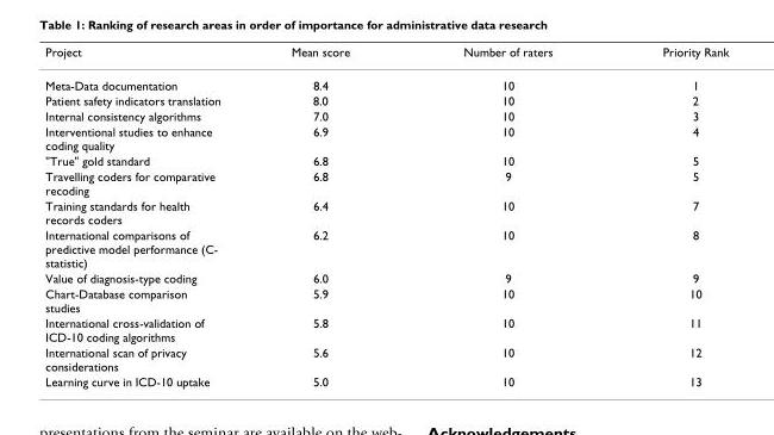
<table><thead><tr><td>Project</td><td>Mean score</td><td>Number of raters</td><td>Priority Rank</td></tr></thead><tbody><tr><td>Meta-Data documentation</td><td>8.4</td><td>10</td><td>1</td></tr><tr><td>Patient safety indicators translation</td><td>8.0</td><td>10</td><td>2</td></tr><tr><td>Internal consistency algorithms</td><td>7.0</td><td>10</td><td>3</td></tr><tr><td>Interventional studies to enhance coding quality</td><td>6.9</td><td>10</td><td>4</td></tr><tr><td>&quot;True&quot; gold standard</td><td>6.8</td><td>10</td><td>5</td></tr><tr><td>Travelling coders for comparative recoding</td><td>6.8</td><td>9</td><td>5</td></tr><tr><td>Training standards for health records coders</td><td>6.4</td><td>10</td><td>7</td></tr><tr><td>International comparisons of predictive model performance (C- statistic)</td><td>6.2</td><td>10</td><td>8</td></tr><tr><td>Value of diagnosis-type coding</td><td>6.0</td><td>9</td><td>9</td></tr><tr><td>Chart-Database comparison studies</td><td>5.9</td><td>10</td><td>10</td></tr><tr><td>International cross-validation of ICD-10 coding algorithms</td><td>5.8</td><td>10</td><td>11</td></tr><tr><td>International scan of privacy considerations</td><td>5.6</td><td>10</td><td>12</td></tr><tr><td>Learning curve in ICD-10 uptake</td><td>5.0</td><td>10</td><td>13</td></tr></tbody></table>